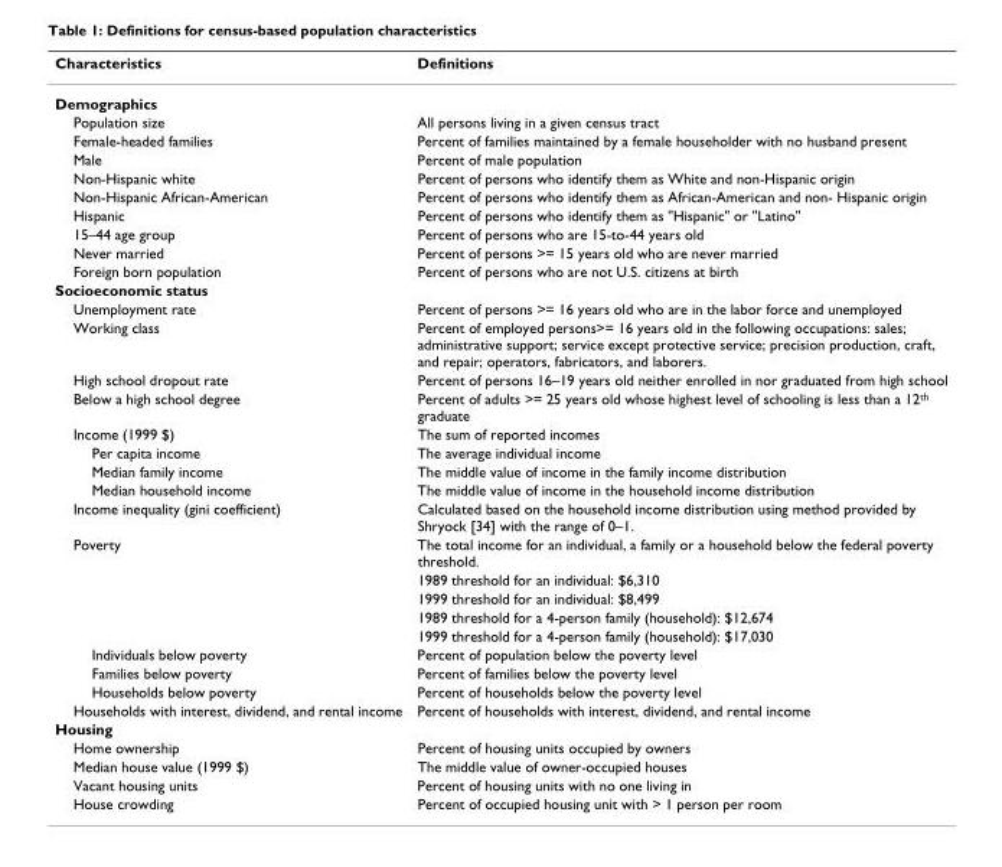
<table><thead><tr><td>Characteristics</td><td>Definitions</td></tr></thead><tbody><tr><td colspan="2">Demographics</td></tr><tr><td>Population size</td><td>All persons living in a given census tract</td></tr><tr><td>Female-headed families</td><td>Percent of families maintained by a female householder with no husband present</td></tr><tr><td>Male</td><td>Percent of male population</td></tr><tr><td>Non-Hispanic white</td><td>Percent of persons who identify them as White and non-Hispanic origin</td></tr><tr><td>Non-Hispanic African-American</td><td>Percent of persons who identify them as African-American and non- Hispanic origin</td></tr><tr><td>Hispanic</td><td>Percent of persons who identify them as &quot;Hispanic&quot; or &quot;Latino&quot;</td></tr><tr><td>15–44 age group</td><td>Percent of persons who are 15-to-44 years old</td></tr><tr><td>Never married</td><td>Percent of persons &gt;= 15 years old who are never married</td></tr><tr><td>Foreign born population</td><td>Percent of persons who are not U.S. citizens at birth</td></tr><tr><td colspan="2">Socioeconomic status</td></tr><tr><td>Unemployment rate</td><td>Percent of persons &gt;= 16 years old who are in the labor force and unemployed</td></tr><tr><td>Working class</td><td>Percent of employed persons&gt;= 16 years old in the following occupations: sales; administrative support; service except protective service; precision production, craft, and repair; operators, fabricators, and laborers.</td></tr><tr><td>High school dropout rate</td><td>Percent of persons 16–19 years old neither enrolled in nor graduated from high school</td></tr><tr><td>Below a high school degree</td><td>Percent of adults &gt;= 25 years old whose highest level of schooling is less than a 12<sup>th</sup> graduate</td></tr><tr><td>Income (1999 $)</td><td>The sum of reported incomes</td></tr><tr><td>Per capita income</td><td>The average individual income</td></tr><tr><td>Median family income</td><td>The middle value of income in the family income distribution</td></tr><tr><td>Median household income</td><td>The middle value of income in the household income distribution</td></tr><tr><td>Income inequality (gini coefficient)</td><td>Calculated based on the household income distribution using method provided by Shryock [34] with the range of 0–1.</td></tr><tr><td rowspan="5">Poverty</td><td>The total income for an individual, a family or a household below the federal poverty threshold.</td></tr><tr><td>1989 threshold for an individual: $6,310</td></tr><tr><td>1999 threshold for an individual: $8,499</td></tr><tr><td>1989 threshold for a 4-person family (household): $12,674</td></tr><tr><td>1999 threshold for a 4-person family (household): $17,030</td></tr><tr><td>Individuals below poverty</td><td>Percent of population below the poverty level</td></tr><tr><td>Families below poverty</td><td>Percent of families below the poverty level</td></tr><tr><td>Households below poverty</td><td>Percent of households below the poverty level</td></tr><tr><td>Households with interest, dividend, and rental income</td><td>Percent of households with interest, dividend, and rental income</td></tr><tr><td colspan="2">Housing</td></tr><tr><td>Home ownership</td><td>Percent of housing units occupied by owners</td></tr><tr><td>Median house value (1999 $)</td><td>The middle value of owner-occupied houses</td></tr><tr><td>Vacant housing units</td><td>Percent of housing units with no one living in</td></tr><tr><td>House crowding</td><td>Percent of occupied housing unit with &gt; 1 person per room</td></tr></tbody></table>